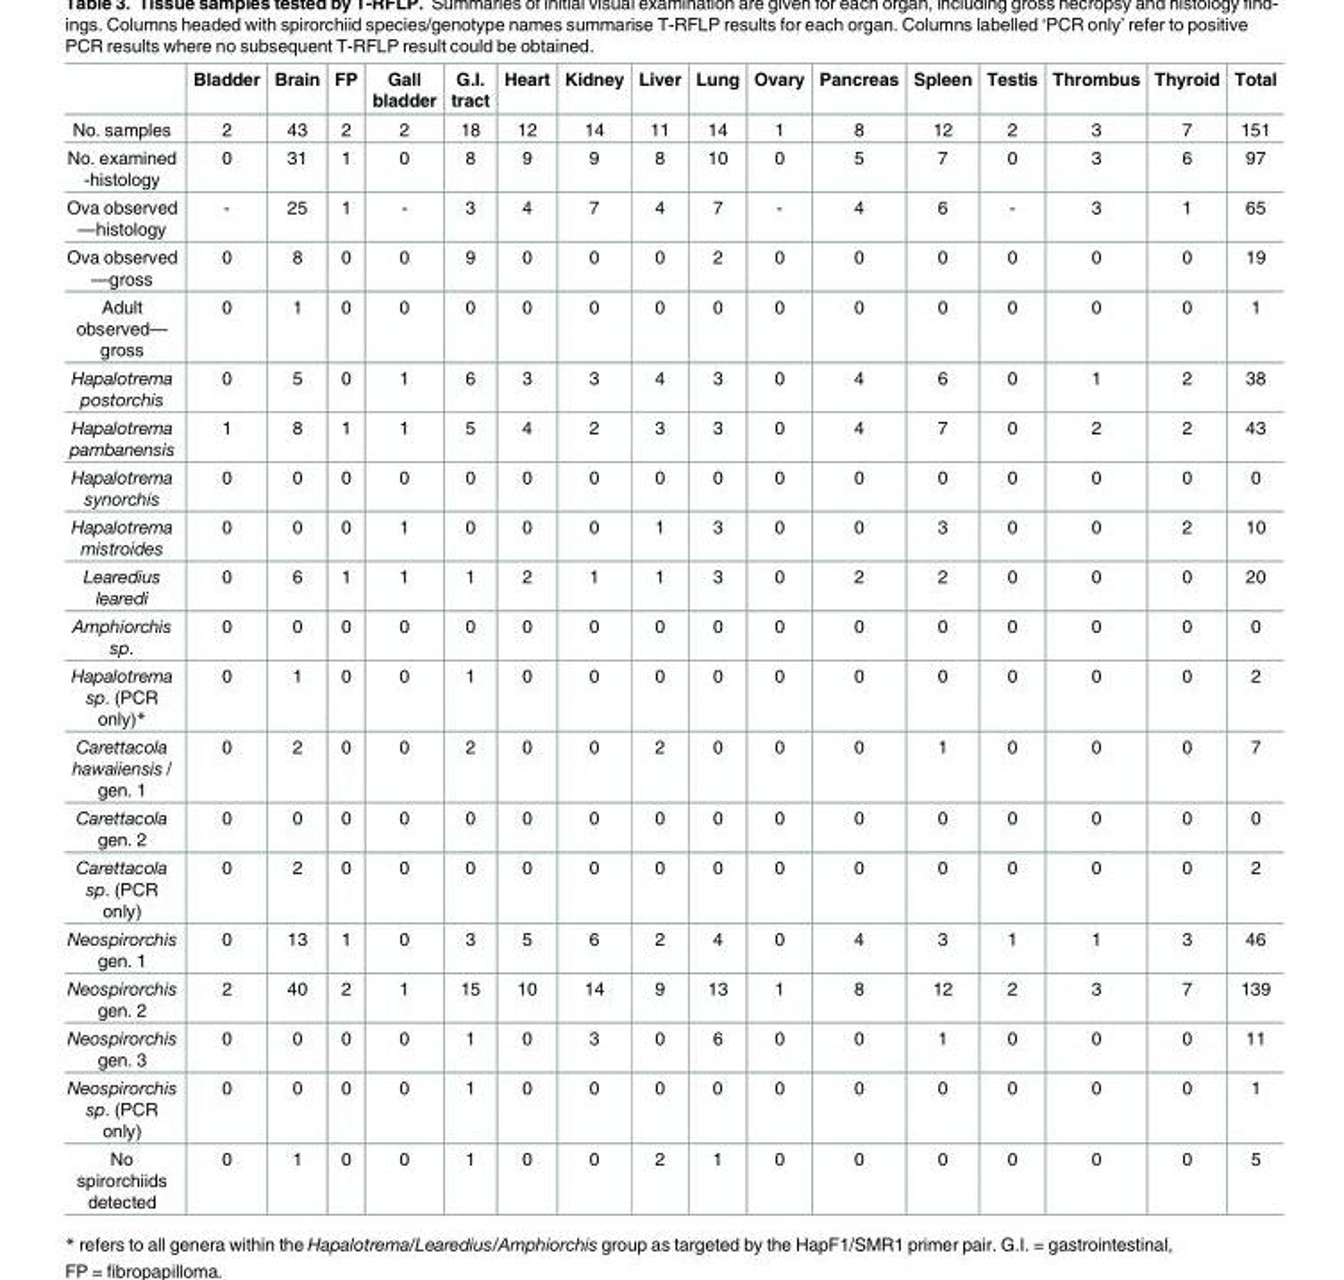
<table><thead><tr><td></td><td>Bladder</td><td>Brain</td><td>FP</td><td>Gall bladder</td><td>G.I. tract</td><td>Heart</td><td>Kidney</td><td>Liver</td><td>Lung</td><td>Ovary</td><td>Pancreas</td><td>Spleen</td><td>Testis</td><td>Thrombus</td><td>Thyroid</td><td>Total</td></tr></thead><tbody><tr><td>No. samples</td><td>2</td><td>43</td><td>2</td><td>2</td><td>18</td><td>12</td><td>14</td><td>11</td><td>14</td><td>1</td><td>8</td><td>12</td><td>2</td><td>3</td><td>7</td><td>151</td></tr><tr><td>No. examined -histology</td><td>0</td><td>31</td><td>1</td><td>0</td><td>8</td><td>9</td><td>9</td><td>8</td><td>10</td><td>0</td><td>5</td><td>7</td><td>0</td><td>3</td><td>6</td><td>97</td></tr><tr><td>Ova observed —histology</td><td>-</td><td>25</td><td>1</td><td>-</td><td>3</td><td>4</td><td>7</td><td>4</td><td>7</td><td>-</td><td>4</td><td>6</td><td>-</td><td>3</td><td>1</td><td>65</td></tr><tr><td>Ova observed —gross</td><td>0</td><td>8</td><td>0</td><td>0</td><td>9</td><td>0</td><td>0</td><td>0</td><td>2</td><td>0</td><td>0</td><td>0</td><td>0</td><td>0</td><td>0</td><td>19</td></tr><tr><td>Adult observed— gross</td><td>0</td><td>1</td><td>0</td><td>0</td><td>0</td><td>0</td><td>0</td><td>0</td><td>0</td><td>0</td><td>0</td><td>0</td><td>0</td><td>0</td><td>0</td><td>1</td></tr><tr><td>Hapalotrema postorchis</td><td>0</td><td>5</td><td>0</td><td>1</td><td>6</td><td>3</td><td>3</td><td>4</td><td>3</td><td>0</td><td>4</td><td>6</td><td>0</td><td>1</td><td>2</td><td>38</td></tr><tr><td>Hapalotrema pambanensis</td><td>1</td><td>8</td><td>1</td><td>1</td><td>5</td><td>4</td><td>2</td><td>3</td><td>3</td><td>0</td><td>4</td><td>7</td><td>0</td><td>2</td><td>2</td><td>43</td></tr><tr><td>Hapalotrema synorchis</td><td>0</td><td>0</td><td>0</td><td>0</td><td>0</td><td>0</td><td>0</td><td>0</td><td>0</td><td>0</td><td>0</td><td>0</td><td>0</td><td>0</td><td>0</td><td>0</td></tr><tr><td>Hapalotrema mistroides</td><td>0</td><td>0</td><td>0</td><td>1</td><td>0</td><td>0</td><td>0</td><td>1</td><td>3</td><td>0</td><td>0</td><td>3</td><td>0</td><td>0</td><td>2</td><td>10</td></tr><tr><td>Learedius learedi</td><td>0</td><td>6</td><td>1</td><td>1</td><td>1</td><td>2</td><td>1</td><td>1</td><td>3</td><td>0</td><td>2</td><td>2</td><td>0</td><td>0</td><td>0</td><td>20</td></tr><tr><td>Amphiorchis sp.</td><td>0</td><td>0</td><td>0</td><td>0</td><td>0</td><td>0</td><td>0</td><td>0</td><td>0</td><td>0</td><td>0</td><td>0</td><td>0</td><td>0</td><td>0</td><td>0</td></tr><tr><td>Hapalotrema sp. (PCR only)*</td><td>0</td><td>1</td><td>0</td><td>0</td><td>1</td><td>0</td><td>0</td><td>0</td><td>0</td><td>0</td><td>0</td><td>0</td><td>0</td><td>0</td><td>0</td><td>2</td></tr><tr><td>Carettacola hawaiiensis / gen. 1</td><td>0</td><td>2</td><td>0</td><td>0</td><td>2</td><td>0</td><td>0</td><td>2</td><td>0</td><td>0</td><td>0</td><td>1</td><td>0</td><td>0</td><td>0</td><td>7</td></tr><tr><td>Carettacola gen. 2</td><td>0</td><td>0</td><td>0</td><td>0</td><td>0</td><td>0</td><td>0</td><td>0</td><td>0</td><td>0</td><td>0</td><td>0</td><td>0</td><td>0</td><td>0</td><td>0</td></tr><tr><td>Carettacola sp. (PCR only)</td><td>0</td><td>2</td><td>0</td><td>0</td><td>0</td><td>0</td><td>0</td><td>0</td><td>0</td><td>0</td><td>0</td><td>0</td><td>0</td><td>0</td><td>0</td><td>2</td></tr><tr><td>Neospirorchis gen. 1</td><td>0</td><td>13</td><td>1</td><td>0</td><td>3</td><td>5</td><td>6</td><td>2</td><td>4</td><td>0</td><td>4</td><td>3</td><td>1</td><td>1</td><td>3</td><td>46</td></tr><tr><td>Neospirorchis gen. 2</td><td>2</td><td>40</td><td>2</td><td>1</td><td>15</td><td>10</td><td>14</td><td>9</td><td>13</td><td>1</td><td>8</td><td>12</td><td>2</td><td>3</td><td>7</td><td>139</td></tr><tr><td>Neospirorchis gen. 3</td><td>0</td><td>0</td><td>0</td><td>0</td><td>1</td><td>0</td><td>3</td><td>0</td><td>6</td><td>0</td><td>0</td><td>1</td><td>0</td><td>0</td><td>0</td><td>11</td></tr><tr><td>Neospirorchis sp. (PCR only)</td><td>0</td><td>0</td><td>0</td><td>0</td><td>1</td><td>0</td><td>0</td><td>0</td><td>0</td><td>0</td><td>0</td><td>0</td><td>0</td><td>0</td><td>0</td><td>1</td></tr><tr><td>No spirorchiids detected</td><td>0</td><td>1</td><td>0</td><td>0</td><td>1</td><td>0</td><td>0</td><td>2</td><td>1</td><td>0</td><td>0</td><td>0</td><td>0</td><td>0</td><td>0</td><td>5</td></tr></tbody></table>